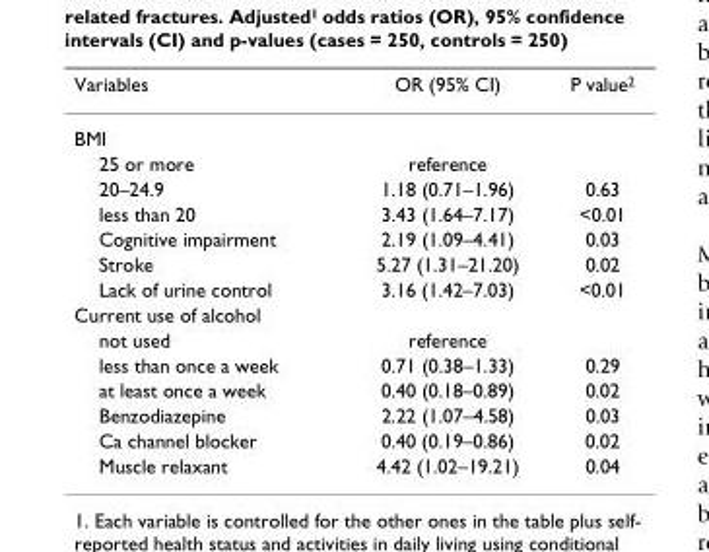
<table><thead><tr><td>Variables</td><td>OR (95% CI)</td><td>P value<sup>2</sup></td></tr></thead><tbody><tr><td colspan="3">BMI</td></tr><tr><td>25 or more</td><td>reference</td><td></td></tr><tr><td>20–24.9</td><td>1.18 (0.71–1.96)</td><td>0.63</td></tr><tr><td>less than 20</td><td>3.43 (1.64–7.17)</td><td>&lt;0.01</td></tr><tr><td>Cognitive impairment</td><td>2.19 (1.09–4.41)</td><td>0.03</td></tr><tr><td>Stroke</td><td>5.27 (1.31–21.20)</td><td>0.02</td></tr><tr><td>Lack of urine control</td><td>3.16 (1.42–7.03)</td><td>&lt;0.01</td></tr><tr><td colspan="3">Current use of alcohol</td></tr><tr><td>not used</td><td>reference</td><td></td></tr><tr><td>less than once a week</td><td>0.71 (0.38–1.33)</td><td>0.29</td></tr><tr><td>at least once a week</td><td>0.40 (0.18–0.89)</td><td>0.02</td></tr><tr><td>Benzodiazepine</td><td>2.22 (1.07–4.58)</td><td>0.03</td></tr><tr><td>Ca channel blocker</td><td>0.40 (0.19–0.86)</td><td>0.02</td></tr><tr><td>Muscle relaxant</td><td>4.42 (1.02–19.21)</td><td>0.04</td></tr></tbody></table>